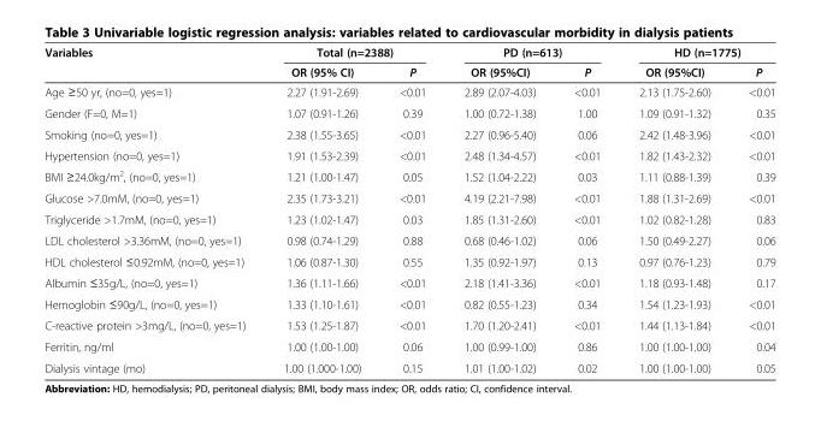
<table><thead><tr><td rowspan="2">Variables</td><td colspan="2">Total (n=2388)</td><td colspan="2">PD (n=613)</td><td colspan="2">HD (n=1775)</td></tr><tr><td>OR (95% CI)</td><td>P</td><td>OR (95%CI)</td><td>P</td><td>OR (95%CI)</td><td>P</td></tr></thead><tbody><tr><td>Age ≥50 yr, (no=0, yes=1)</td><td>2.27 (1.91-2.69)</td><td>&lt;0.01</td><td>2.89 (2.07-4.03)</td><td>&lt;0.01</td><td>2.13 (1.75-2.60)</td><td>&lt;0.01</td></tr><tr><td>Gender (F=0, M=1)</td><td>1.07 (0.91-1.26)</td><td>0.39</td><td>1.00 (0.72-1.38)</td><td>1.00</td><td>1.09 (0.91-1.32)</td><td>0.35</td></tr><tr><td>Smoking (no=0, yes=1)</td><td>2.38 (1.55-3.65)</td><td>&lt;0.01</td><td>2.27 (0.96-5.40)</td><td>0.06</td><td>2.42 (1.48-3.96)</td><td>&lt;0.01</td></tr><tr><td>Hypertension (no=0, yes=1)</td><td>1.91 (1.53-2.39)</td><td>&lt;0.01</td><td>2.48 (1.34-4.57)</td><td>&lt;0.01</td><td>1.82 (1.43-2.32)</td><td>&lt;0.01</td></tr><tr><td>BMI ≥24.0kg/m<sup>2</sup>, (no=0, yes=1)</td><td>1.21 (1.00-1.47)</td><td>0.05</td><td>1.52 (1.04-2.22)</td><td>0.03</td><td>1.11 (0.88-1.39)</td><td>0.39</td></tr><tr><td>Glucose &gt;7.0mM, (no=0, yes=1)</td><td>2.35 (1.73-3.21)</td><td>&lt;0.01</td><td>4.19 (2.21-7.98)</td><td>&lt;0.01</td><td>1.88 (1.31-2.69)</td><td>&lt;0.01</td></tr><tr><td>Triglyceride &gt;1.7mM, (no=0, yes=1)</td><td>1.23 (1.02-1.47)</td><td>0.03</td><td>1.85 (1.31-2.60)</td><td>&lt;0.01</td><td>1.02 (0.82-1.28)</td><td>0.83</td></tr><tr><td>LDL cholesterol &gt;3.36mM, (no=0, yes=1)</td><td>0.98 (0.74-1.29)</td><td>0.88</td><td>0.68 (0.46-1.02)</td><td>0.06</td><td>1.50 (0.49-2.27)</td><td>0.06</td></tr><tr><td>HDL cholesterol ≤0.92mM, (no=0, yes=1)</td><td>1.06 (0.87-1.30)</td><td>0.55</td><td>1.35 (0.92-1.97)</td><td>0.13</td><td>0.97 (0.76-1.23)</td><td>0.79</td></tr><tr><td>Albumin ≤35g/L, (no=0, yes=1)</td><td>1.36 (1.11-1.66)</td><td>&lt;0.01</td><td>2.18 (1.41-3.36)</td><td>&lt;0.01</td><td>1.18 (0.93-1.48)</td><td>0.17</td></tr><tr><td>Hemoglobin ≤90g/L, (no=0, yes=1)</td><td>1.33 (1.10-1.61)</td><td>&lt;0.01</td><td>0.82 (0.55-1.23)</td><td>0.34</td><td>1.54 (1.23-1.93)</td><td>&lt;0.01</td></tr><tr><td>C-reactive protein &gt;3mg/L, (no=0, yes=1)</td><td>1.53 (1.25-1.87)</td><td>&lt;0.01</td><td>1.70 (1.20-2.41)</td><td>&lt;0.01</td><td>1.44 (1.13-1.84)</td><td>&lt;0.01</td></tr><tr><td>Ferritin, ng/ml</td><td>1.00 (1.00-1.00)</td><td>0.06</td><td>1.00 (0.99-1.00)</td><td>0.86</td><td>1.00 (1.00-1.00)</td><td>0.04</td></tr><tr><td>Dialysis vintage (mo)</td><td>1.00 (1.000-1.00)</td><td>0.15</td><td>1.01 (1.00-1.02)</td><td>0.02</td><td>1.00 (1.00-1.00)</td><td>0.05</td></tr></tbody></table>